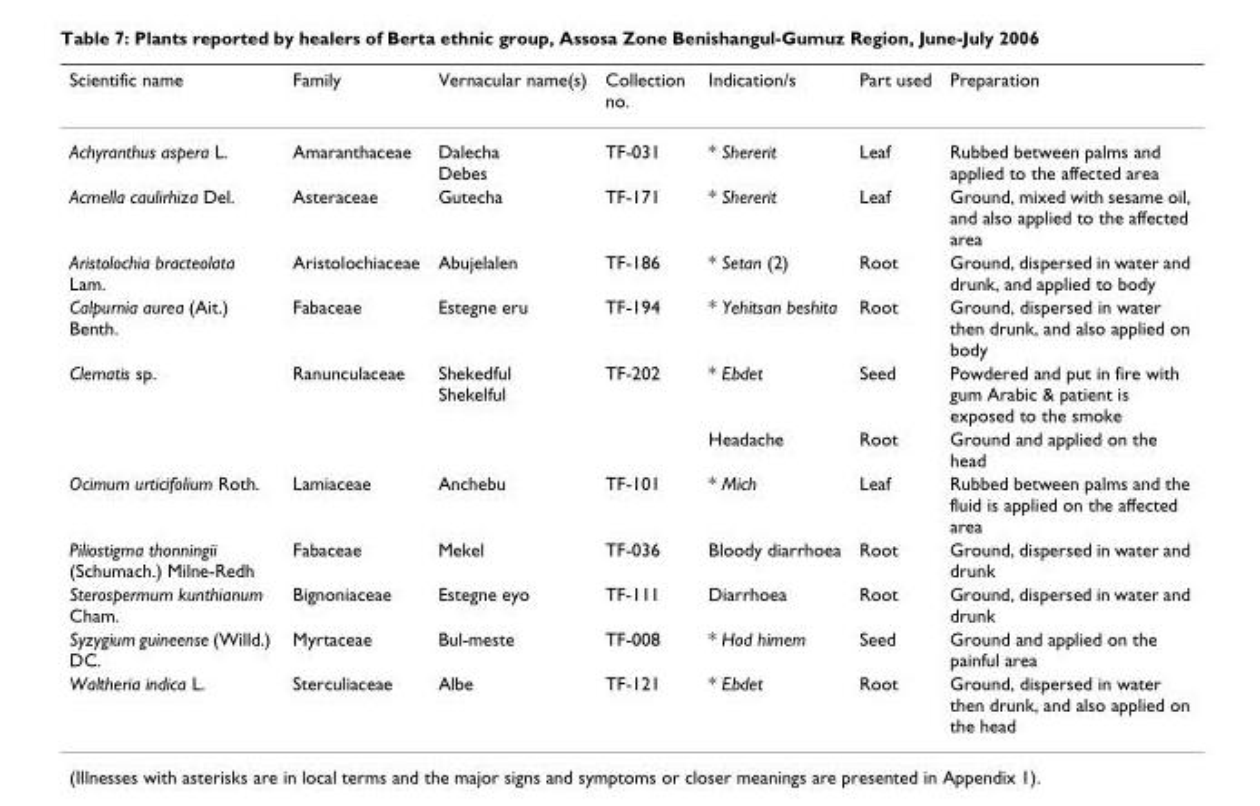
<table><thead><tr><td>Scientific name</td><td>Family</td><td>Vernacular name(s)</td><td>Collection no.</td><td>Indication/s</td><td>Part used</td><td>Preparation</td></tr></thead><tbody><tr><td>Achyranthus aspera L.</td><td>Amaranthaceae</td><td>Dalecha Debes</td><td>TF-031</td><td>* Shererit</td><td>Leaf</td><td>Rubbed between palms and applied to the affected area</td></tr><tr><td>Acmella caulirhiza Del.</td><td>Asteraceae</td><td>Gutecha</td><td>TF-171</td><td>* Shererit</td><td>Leaf</td><td>Ground, mixed with sesame oil, and also applied to the affected area</td></tr><tr><td>Aristolochia bracteolata Lam.</td><td>Aristolochiaceae</td><td>Abujelalen</td><td>TF-186</td><td>* Setan (2)</td><td>Root</td><td>Ground, dispersed in water and drunk, and applied to body</td></tr><tr><td>Calpurnia aurea (Ait.) Benth.</td><td>Fabaceae</td><td>Estegne eru</td><td>TF-194</td><td>* Yehitsan beshita</td><td>Root</td><td>Ground, dispersed in water then drunk, and also applied on body</td></tr><tr><td rowspan="2">Clematis sp.</td><td>Ranunculaceae</td><td>Shekedful Shekelful</td><td>TF-202</td><td>* Ebdet</td><td>Seed</td><td>Powdered and put in fire with gum Arabic &amp; patient is exposed to the smoke</td></tr><tr><td></td><td></td><td></td><td>Headache</td><td>Root</td><td>Ground and applied on the head</td></tr><tr><td>Ocimum urticifolium Roth.</td><td>Lamiaceae</td><td>Anchebu</td><td>TF-101</td><td>* Mich</td><td>Leaf</td><td>Rubbed between palms and the fluid is applied on the affected area</td></tr><tr><td>Piliostigma thonningii (Schumach.) Milne-Redh</td><td>Fabaceae</td><td>Mekel</td><td>TF-036</td><td>Bloody diarrhoea</td><td>Root</td><td>Ground, dispersed in water and drunk</td></tr><tr><td>Sterospermum kunthianum Cham.</td><td>Bignoniaceae</td><td>Estegne eyo</td><td>TF-111</td><td>Diarrhoea</td><td>Root</td><td>Ground, dispersed in water and drunk</td></tr><tr><td>Syzygium guineense (Willd.) DC.</td><td>Myrtaceae</td><td>Bul-meste</td><td>TF-008</td><td>* Hod himem</td><td>Seed</td><td>Ground and applied on the painful area</td></tr><tr><td>Waltheria indica L.</td><td>Sterculiaceae</td><td>Albe</td><td>TF-121</td><td>* Ebdet</td><td>Root</td><td>Ground, dispersed in water then drunk, and also applied on the head</td></tr></tbody></table>